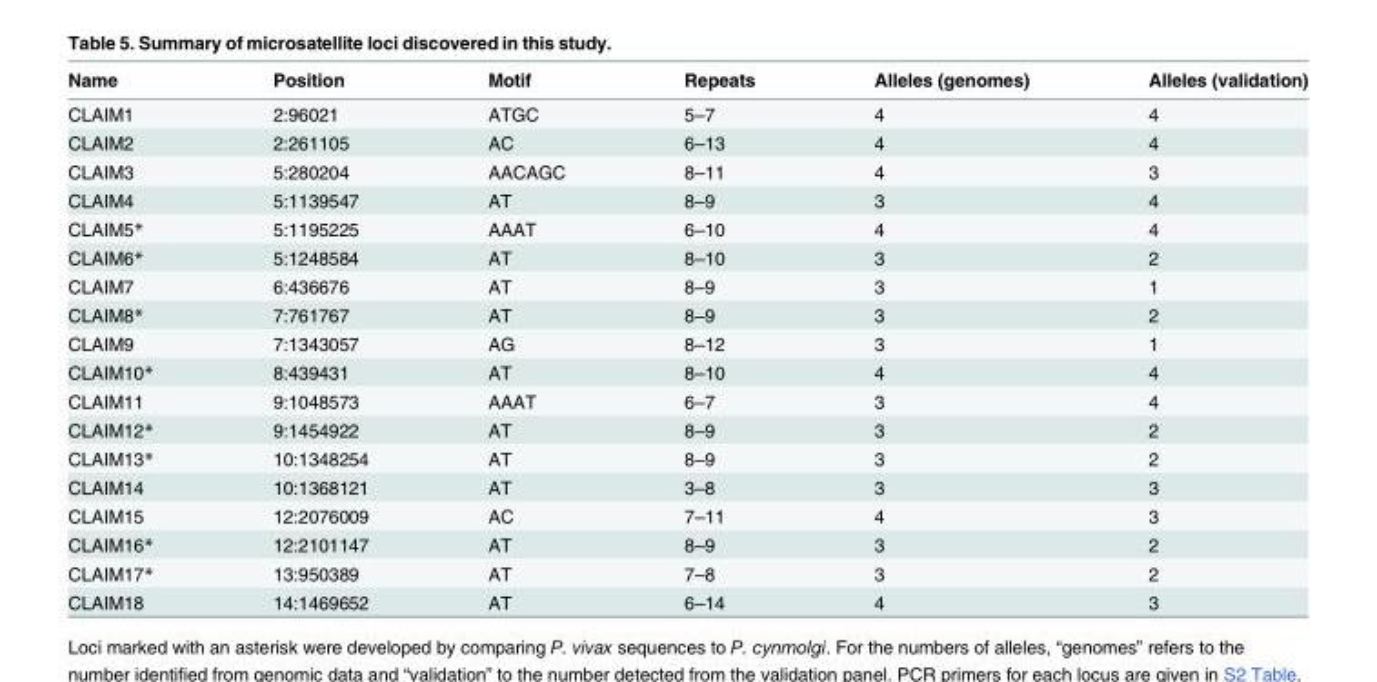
<table><thead><tr><td>Name</td><td>Position</td><td>Motif</td><td>Repeats</td><td>Alleles (genomes)</td><td>Alleles (validation)</td></tr></thead><tbody><tr><td>CLAIM1</td><td>2:96021</td><td>ATGC</td><td>5–7</td><td>4</td><td>4</td></tr><tr><td>CLAIM2</td><td>2:261105</td><td>AC</td><td>6–13</td><td>4</td><td>4</td></tr><tr><td>CLAIM3</td><td>5:280204</td><td>AACAGC</td><td>8–11</td><td>4</td><td>3</td></tr><tr><td>CLAIM4</td><td>5:1139547</td><td>AT</td><td>8–9</td><td>3</td><td>4</td></tr><tr><td>CLAIM5*</td><td>5:1195225</td><td>AAAT</td><td>6–10</td><td>4</td><td>4</td></tr><tr><td>CLAIM6*</td><td>5:1248584</td><td>AT</td><td>8–10</td><td>3</td><td>2</td></tr><tr><td>CLAIM7</td><td>6:436676</td><td>AT</td><td>8–9</td><td>3</td><td>1</td></tr><tr><td>CLAIM8*</td><td>7:761767</td><td>AT</td><td>8–9</td><td>3</td><td>2</td></tr><tr><td>CLAIM9</td><td>7:1343057</td><td>AG</td><td>8–12</td><td>3</td><td>1</td></tr><tr><td>CLAIM10*</td><td>8:439431</td><td>AT</td><td>8–10</td><td>4</td><td>4</td></tr><tr><td>CLAIM11</td><td>9:1048573</td><td>AAAT</td><td>6–7</td><td>3</td><td>4</td></tr><tr><td>CLAIM12*</td><td>9:1454922</td><td>AT</td><td>8–9</td><td>3</td><td>2</td></tr><tr><td>CLAIM13*</td><td>10:1348254</td><td>AT</td><td>8–9</td><td>3</td><td>2</td></tr><tr><td>CLAIM14</td><td>10:1368121</td><td>AT</td><td>3–8</td><td>3</td><td>3</td></tr><tr><td>CLAIM15</td><td>12:2076009</td><td>AC</td><td>7–11</td><td>4</td><td>3</td></tr><tr><td>CLAIM16*</td><td>12:2101147</td><td>AT</td><td>8–9</td><td>3</td><td>2</td></tr><tr><td>CLAIM17*</td><td>13:950389</td><td>AT</td><td>7–8</td><td>3</td><td>2</td></tr><tr><td>CLAIM18</td><td>14:1469652</td><td>AT</td><td>6–14</td><td>4</td><td>3</td></tr></tbody></table>